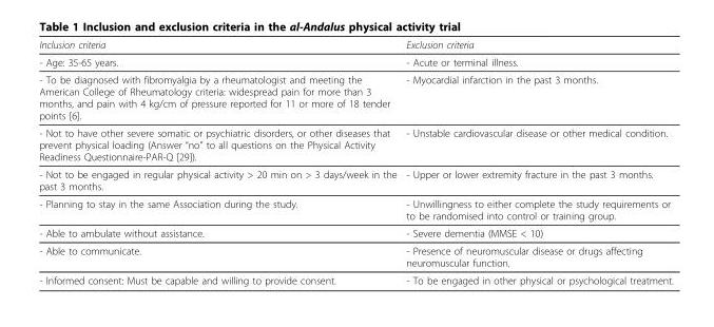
<table><thead><tr><td>Inclusion criteria</td><td>Exclusion criteria</td></tr></thead><tbody><tr><td>- Age: 35-65 years.</td><td>- Acute or terminal illness.</td></tr><tr><td>- To be diagnosed with fibromyalgia by a rheumatologist and meeting the American College of Rheumatology criteria: widespread pain for more than 3 months, and pain with 4 kg/cm of pressure reported for 11 or more of 18 tender points [6].</td><td>- Myocardial infarction in the past 3 months.</td></tr><tr><td>- Not to have other severe somatic or psychiatric disorders, or other diseases that prevent physical loading (Answer “no” to all questions on the Physical Activity Readiness Questionnaire-PAR-Q [29]).</td><td>- Unstable cardiovascular disease or other medical condition.</td></tr><tr><td>- Not to be engaged in regular physical activity &gt; 20 min on &gt; 3 days/week in the past 3 months.</td><td>- Upper or lower extremity fracture in the past 3 months.</td></tr><tr><td>- Planning to stay in the same Association during the study.</td><td>- Unwillingness to either complete the study requirements or to be randomised into control or training group.</td></tr><tr><td>- Able to ambulate without assistance.</td><td>- Severe dementia (MMSE &lt; 10)</td></tr><tr><td>- Able to communicate.</td><td>- Presence of neuromuscular disease or drugs affecting neuromuscular function.</td></tr><tr><td>- Informed consent: Must be capable and willing to provide consent.</td><td>- To be engaged in other physical or psychological treatment.</td></tr></tbody></table>